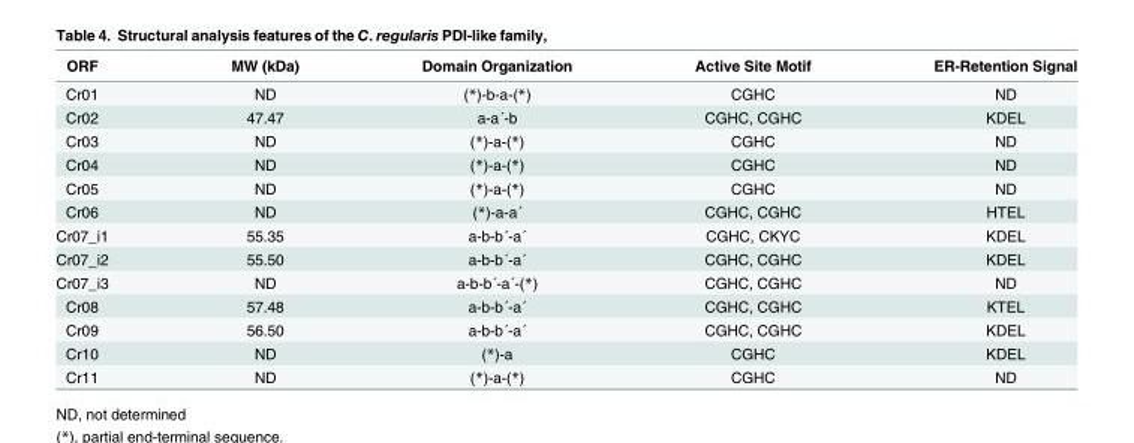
<table><thead><tr><td>ORF</td><td>MW (kDa)</td><td>Domain Organization</td><td>Active Site Motif</td><td>ER-Retention Signal</td></tr></thead><tbody><tr><td>Cr01</td><td>ND</td><td>(*)-b-a-(*)</td><td>CGHC</td><td>ND</td></tr><tr><td>Cr02</td><td>47.47</td><td>a-a´-b</td><td>CGHC, CGHC</td><td>KDEL</td></tr><tr><td>Cr03</td><td>ND</td><td>(*)-a-(*)</td><td>CGHC</td><td>ND</td></tr><tr><td>Cr04</td><td>ND</td><td>(*)-a-(*)</td><td>CGHC</td><td>ND</td></tr><tr><td>Cr05</td><td>ND</td><td>(*)-a-(*)</td><td>CGHC</td><td>ND</td></tr><tr><td>Cr06</td><td>ND</td><td>(*)-a-a´</td><td>CGHC, CGHC</td><td>HTEL</td></tr><tr><td>Cr07_i1</td><td>55.35</td><td>a-b-b´-a´</td><td>CGHC, CKYC</td><td>KDEL</td></tr><tr><td>Cr07_i2</td><td>55.50</td><td>a-b-b´-a´</td><td>CGHC, CGHC</td><td>KDEL</td></tr><tr><td>Cr07_i3</td><td>ND</td><td>a-b-b´-a´-(*)</td><td>CGHC, CGHC</td><td>ND</td></tr><tr><td>Cr08</td><td>57.48</td><td>a-b-b´-a´</td><td>CGHC, CGHC</td><td>KTEL</td></tr><tr><td>Cr09</td><td>56.50</td><td>a-b-b´-a´</td><td>CGHC, CGHC</td><td>KDEL</td></tr><tr><td>Cr10</td><td>ND</td><td>(*)-a</td><td>CGHC</td><td>KDEL</td></tr><tr><td>Cr11</td><td>ND</td><td>(*)-a-(*)</td><td>CGHC</td><td>ND</td></tr></tbody></table>